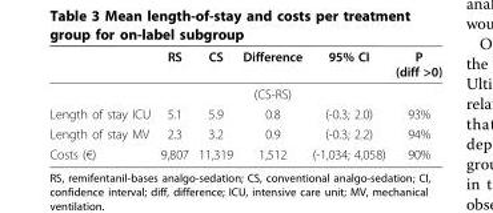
<table><thead><tr><td></td><td>RS</td><td>CS</td><td>Difference</td><td>95% CI</td><td>P (diff &gt;0)</td></tr></thead><tbody><tr><td></td><td></td><td></td><td>(CS-RS)</td><td></td><td></td></tr><tr><td>Length of stay ICU</td><td>5.1</td><td>5.9</td><td>0.8</td><td>(-0.3; 2.0)</td><td>93%</td></tr><tr><td>Length of stay MV</td><td>2.3</td><td>3.2</td><td>0.9</td><td>(-0.3; 2.2)</td><td>94%</td></tr><tr><td>Costs (€)</td><td>9,807</td><td>11,319</td><td>1,512</td><td>(-1,034; 4,058)</td><td>90%</td></tr></tbody></table>